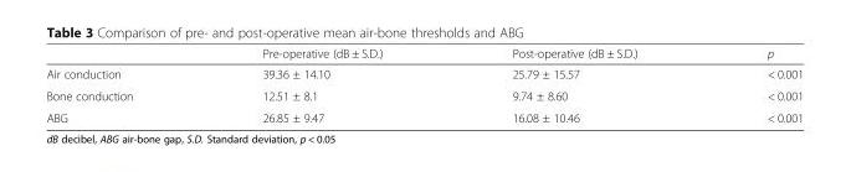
<table><thead><tr><td></td><td>Pre-operative (dB ± S.D.)</td><td>Post-operative (dB ± S.D.)</td><td>p</td></tr></thead><tbody><tr><td>Air conduction</td><td>39.36 ± 14.10</td><td>25.79 ± 15.57</td><td>&lt; 0.001</td></tr><tr><td>Bone conduction</td><td>12.51 ± 8.1</td><td>9.74 ± 8.60</td><td>&lt; 0.001</td></tr><tr><td>ABG</td><td>26.85 ± 9.47</td><td>16.08 ± 10.46</td><td>&lt; 0.001</td></tr></tbody></table>